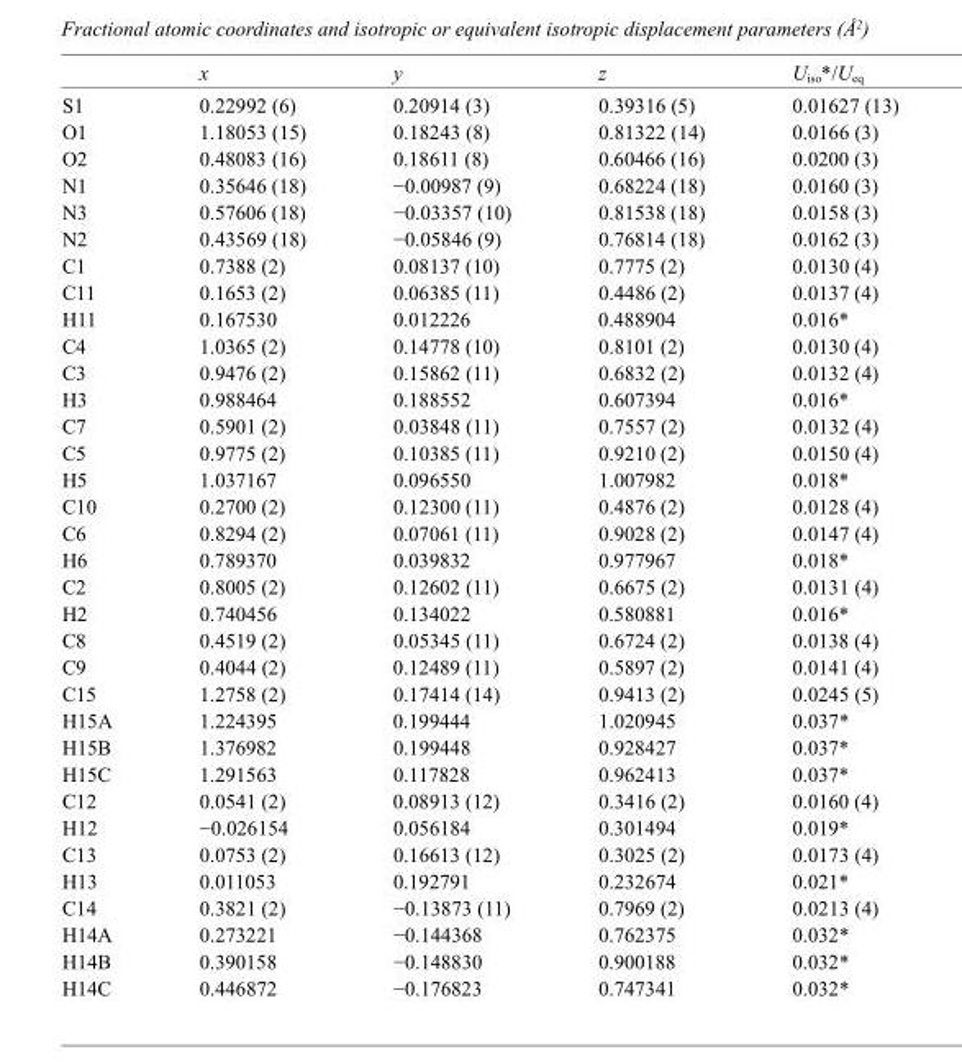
<table><thead><tr><td></td><td>x</td><td>y</td><td>z</td><td>U<sub>iso</sub>*/U<sub>eq</sub></td></tr></thead><tbody><tr><td>S1</td><td>0.22992 (6)</td><td>0.20914 (3)</td><td>0.39316 (5)</td><td>0.01627 (13)</td></tr><tr><td>O1</td><td>1.18053 (15)</td><td>0.18243 (8)</td><td>0.81322 (14)</td><td>0.0166 (3)</td></tr><tr><td>O2</td><td>0.48083 (16)</td><td>0.18611 (8)</td><td>0.60466 (16)</td><td>0.0200 (3)</td></tr><tr><td>N1</td><td>0.35646 (18)</td><td>−0.00987 (9)</td><td>0.68224 (18)</td><td>0.0160 (3)</td></tr><tr><td>N3</td><td>0.57606 (18)</td><td>−0.03357 (10)</td><td>0.81538 (18)</td><td>0.0158 (3)</td></tr><tr><td>N2</td><td>0.43569 (18)</td><td>−0.05846 (9)</td><td>0.76814 (18)</td><td>0.0162 (3)</td></tr><tr><td>C1</td><td>0.7388 (2)</td><td>0.08137 (10)</td><td>0.7775 (2)</td><td>0.0130 (4)</td></tr><tr><td>C11</td><td>0.1653 (2)</td><td>0.06385 (11)</td><td>0.4486 (2)</td><td>0.0137 (4)</td></tr><tr><td>H11</td><td>0.167530</td><td>0.012226</td><td>0.488904</td><td>0.016*</td></tr><tr><td>C4</td><td>1.0365 (2)</td><td>0.14778 (10)</td><td>0.8101 (2)</td><td>0.0130 (4)</td></tr><tr><td>C3</td><td>0.9476 (2)</td><td>0.15862 (11)</td><td>0.6832 (2)</td><td>0.0132 (4)</td></tr><tr><td>H3</td><td>0.988464</td><td>0.188552</td><td>0.607394</td><td>0.016*</td></tr><tr><td>C7</td><td>0.5901 (2)</td><td>0.03848 (11)</td><td>0.7557 (2)</td><td>0.0132 (4)</td></tr><tr><td>C5</td><td>0.9775 (2)</td><td>0.10385 (11)</td><td>0.9210 (2)</td><td>0.0150 (4)</td></tr><tr><td>H5</td><td>1.037167</td><td>0.096550</td><td>1.007982</td><td>0.018*</td></tr><tr><td>C10</td><td>0.2700 (2)</td><td>0.12300 (11)</td><td>0.4876 (2)</td><td>0.0128 (4)</td></tr><tr><td>C6</td><td>0.8294 (2)</td><td>0.07061 (11)</td><td>0.9028 (2)</td><td>0.0147 (4)</td></tr><tr><td>H6</td><td>0.789370</td><td>0.039832</td><td>0.977967</td><td>0.018*</td></tr><tr><td>C2</td><td>0.8005 (2)</td><td>0.12602 (11)</td><td>0.6675 (2)</td><td>0.0131 (4)</td></tr><tr><td>H2</td><td>0.740456</td><td>0.134022</td><td>0.580881</td><td>0.016*</td></tr><tr><td>C8</td><td>0.4519 (2)</td><td>0.05345 (11)</td><td>0.6724 (2)</td><td>0.0138 (4)</td></tr><tr><td>C9</td><td>0.4044 (2)</td><td>0.12489 (11)</td><td>0.5897 (2)</td><td>0.0141 (4)</td></tr><tr><td>C15</td><td>1.2758 (2)</td><td>0.17414 (14)</td><td>0.9413 (2)</td><td>0.0245 (5)</td></tr><tr><td>H15A</td><td>1.224395</td><td>0.199444</td><td>1.020945</td><td>0.037*</td></tr><tr><td>H15B</td><td>1.376982</td><td>0.199448</td><td>0.928427</td><td>0.037*</td></tr><tr><td>H15C</td><td>1.291563</td><td>0.117828</td><td>0.962413</td><td>0.037*</td></tr><tr><td>C12</td><td>0.0541 (2)</td><td>0.08913 (12)</td><td>0.3416 (2)</td><td>0.0160 (4)</td></tr><tr><td>H12</td><td>−0.026154</td><td>0.056184</td><td>0.301494</td><td>0.019*</td></tr><tr><td>C13</td><td>0.0753 (2)</td><td>0.16613 (12)</td><td>0.3025 (2)</td><td>0.0173 (4)</td></tr><tr><td>H13</td><td>0.011053</td><td>0.192791</td><td>0.232674</td><td>0.021*</td></tr><tr><td>C14</td><td>0.3821 (2)</td><td>−0.13873 (11)</td><td>0.7969 (2)</td><td>0.0213 (4)</td></tr><tr><td>H14A</td><td>0.273221</td><td>−0.144368</td><td>0.762375</td><td>0.032*</td></tr><tr><td>H14B</td><td>0.390158</td><td>−0.148830</td><td>0.900188</td><td>0.032*</td></tr><tr><td>H14C</td><td>0.446872</td><td>−0.176823</td><td>0.747341</td><td>0.032*</td></tr></tbody></table>